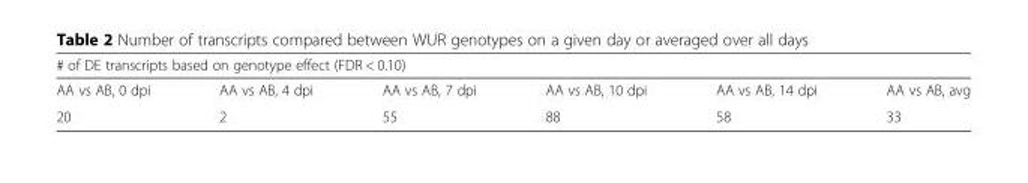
<table><thead><tr><td colspan="6"># of DE transcripts based on genotype effect (FDR &lt; 0.10)</td></tr><tr><td>AA vs AB, 0 dpi</td><td>AA vs AB, 4 dpi</td><td>AA vs AB, 7 dpi</td><td>AA vs AB, 10 dpi</td><td>AA vs AB, 14 dpi</td><td>AA vs AB, avg</td></tr></thead><tbody><tr><td>20</td><td>2</td><td>55</td><td>88</td><td>58</td><td>33</td></tr></tbody></table>